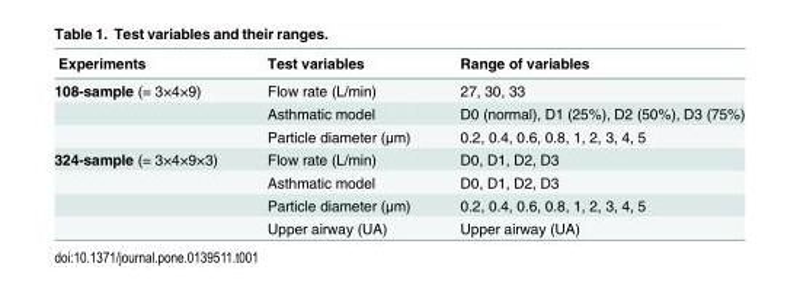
<table><thead><tr><td>Experiments</td><td>Test variables</td><td>Range of variables</td></tr></thead><tbody><tr><td rowspan="3">108-sample (= 3×4×9)</td><td>Flow rate (L/min)</td><td>27, 30, 33</td></tr><tr><td>Asthmatic model</td><td>D0 (normal), D1 (25%), D2 (50%), D3 (75%)</td></tr><tr><td>Particle diameter (μm)</td><td>0.2, 0.4, 0.6, 0.8, 1, 2, 3, 4, 5</td></tr><tr><td rowspan="4">324-sample (= 3×4×9×3)</td><td>Flow rate (L/min)</td><td>D0, D1, D2, D3</td></tr><tr><td>Asthmatic model</td><td>D0, D1, D2, D3</td></tr><tr><td>Particle diameter (μm)</td><td>0.2, 0.4, 0.6, 0.8, 1, 2, 3, 4, 5</td></tr><tr><td>Upper airway (UA)</td><td>Upper airway (UA)</td></tr></tbody></table>